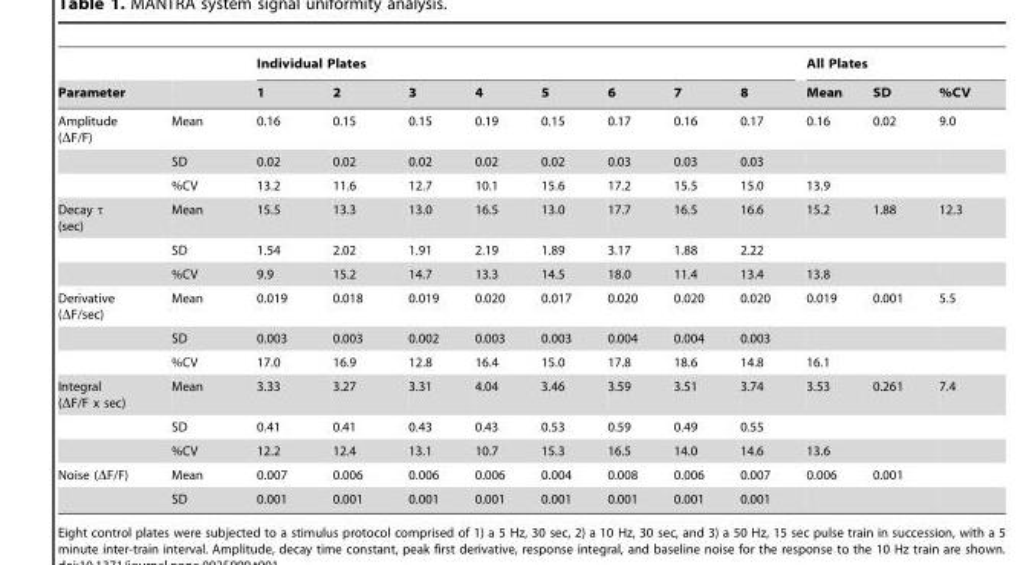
<table><thead><tr><td rowspan="2">Parameter</td><td rowspan="2"></td><td colspan="8">Individual Plates</td><td colspan="3">All Plates</td></tr><tr><td>1</td><td>2</td><td>3</td><td>4</td><td>5</td><td>6</td><td>7</td><td>8</td><td>Mean</td><td>SD</td><td>%CV</td></tr></thead><tbody><tr><td rowspan="3">Amplitude (ΔF/F)</td><td>Mean</td><td>0.16</td><td>0.15</td><td>0.15</td><td>0.19</td><td>0.15</td><td>0.17</td><td>0.16</td><td>0.17</td><td>0.16</td><td>0.02</td><td>9.0</td></tr><tr><td>SD</td><td>0.02</td><td>0.02</td><td>0.02</td><td>0.02</td><td>0.02</td><td>0.03</td><td>0.03</td><td>0.03</td><td></td><td></td><td></td></tr><tr><td>%CV</td><td>13.2</td><td>11.6</td><td>12.7</td><td>10.1</td><td>15.6</td><td>17.2</td><td>15.5</td><td>15.0</td><td>13.9</td><td></td><td></td></tr><tr><td rowspan="3">Decay τ (sec)</td><td>Mean</td><td>15.5</td><td>13.3</td><td>13.0</td><td>16.5</td><td>13.0</td><td>17.7</td><td>16.5</td><td>16.6</td><td>15.2</td><td>1.88</td><td>12.3</td></tr><tr><td>SD</td><td>1.54</td><td>2.02</td><td>1.91</td><td>2.19</td><td>1.89</td><td>3.17</td><td>1.88</td><td>2.22</td><td></td><td></td><td></td></tr><tr><td>%CV</td><td>9.9</td><td>15.2</td><td>14.7</td><td>13.3</td><td>14.5</td><td>18.0</td><td>11.4</td><td>13.4</td><td>13.8</td><td></td><td></td></tr><tr><td rowspan="3">Derivative (ΔF/sec)</td><td>Mean</td><td>0.019</td><td>0.018</td><td>0.019</td><td>0.020</td><td>0.017</td><td>0.020</td><td>0.020</td><td>0.020</td><td>0.019</td><td>0.001</td><td>5.5</td></tr><tr><td>SD</td><td>0.003</td><td>0.003</td><td>0.002</td><td>0.003</td><td>0.003</td><td>0.004</td><td>0.004</td><td>0.003</td><td></td><td></td><td></td></tr><tr><td>%CV</td><td>17.0</td><td>16.9</td><td>12.8</td><td>16.4</td><td>15.0</td><td>17.8</td><td>18.6</td><td>14.8</td><td>16.1</td><td></td><td></td></tr><tr><td rowspan="3">Integral (ΔF/F x sec)</td><td>Mean</td><td>3.33</td><td>3.27</td><td>3.31</td><td>4.04</td><td>3.46</td><td>3.59</td><td>3.51</td><td>3.74</td><td>3.53</td><td>0.261</td><td>7.4</td></tr><tr><td>SD</td><td>0.41</td><td>0.41</td><td>0.43</td><td>0.43</td><td>0.53</td><td>0.59</td><td>0.49</td><td>0.55</td><td></td><td></td><td></td></tr><tr><td>%CV</td><td>12.2</td><td>12.4</td><td>13.1</td><td>10.7</td><td>15.3</td><td>16.5</td><td>14.0</td><td>14.6</td><td>13.6</td><td></td><td></td></tr><tr><td rowspan="2">Noise (ΔF/F)</td><td>Mean</td><td>0.007</td><td>0.006</td><td>0.006</td><td>0.006</td><td>0.004</td><td>0.008</td><td>0.006</td><td>0.007</td><td>0.006</td><td>0.001</td><td></td></tr><tr><td>SD</td><td>0.001</td><td>0.001</td><td>0.001</td><td>0.001</td><td>0.001</td><td>0.001</td><td>0.001</td><td>0.001</td><td></td><td></td><td></td></tr></tbody></table>